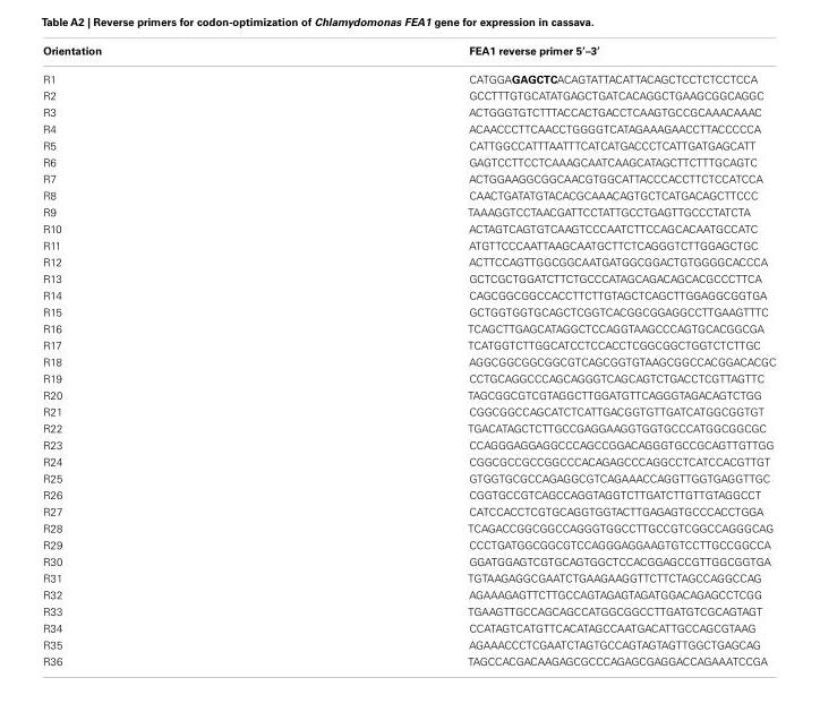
<table><thead><tr><td>Orientation</td><td>FEA1 reverse primer 5′–3′</td></tr></thead><tbody><tr><td>R1</td><td>CATGGAGAGCTCACAGTATTACATTACAGCTCCTCTCCTCCA</td></tr><tr><td>R2</td><td>GCCTTTGTGCATATGAGCTGATCACAGGCTGAAGCGGCAGGC</td></tr><tr><td>R3</td><td>ACTGGGTGTCTTTACCACTGACCTCAAGTGCCGCAAACAAAC</td></tr><tr><td>R4</td><td>ACAACCCTTCAACCTGGGGTCATAGAAAGAACCTTACCCCCA</td></tr><tr><td>R5</td><td>CATTGGCCATTTAATTTCATCATGACCCTCATTGATGAGCATT</td></tr><tr><td>R6</td><td>GAGTCCTTCCTCAAAGCAATCAAGCATAGCTTCTTTGCAGTC</td></tr><tr><td>R7</td><td>ACTGGAAGGCGGCAACGTGGCATTACCCACCTTCTCCATCCA</td></tr><tr><td>R8</td><td>CAACTGATATGTACACGCAAACAGTGCTCATGACAGCTTCCC</td></tr><tr><td>R9</td><td>TAAAGGTCCTAACGATTCCTATTGCCTGAGTTGCCCTATCTA</td></tr><tr><td>R10</td><td>ACTAGTCAGTGTCAAGTCCCAATCTTCCAGCACAATGCCATC</td></tr><tr><td>R11</td><td>ATGTTCCCAATTAAGCAATGCTTCTCAGGGTCTTGGAGCTGC</td></tr><tr><td>R12</td><td>ACTTCCAGTTGGCGGCAATGATGGCGGACTGTGGGGCACCCA</td></tr><tr><td>R13</td><td>GCTCGCTGGATCTTCTGCCCATAGCAGACAGCACGCCCTTCA</td></tr><tr><td>R14</td><td>CAGCGGCGGCCACCTTCTTGTAGCTCAGCTTGGAGGCGGTGA</td></tr><tr><td>R15</td><td>GCTGGTGGTGCAGCTCGGTCACGGCGGAGGCCTTGAAGTTTC</td></tr><tr><td>R16</td><td>TCAGCTTGAGCATAGGCTCCAGGTAAGCCCAGTGCACGGCGA</td></tr><tr><td>R17</td><td>TCATGGTCTTGGCATCCTCCACCTCGGCGGCTGGTCTCTTGC</td></tr><tr><td>R18</td><td>AGGCGGCGGCGGCGTCAGCGGTGTAAGCGGCCACGGACACGC</td></tr><tr><td>R19</td><td>CCTGCAGGCCCAGCAGGGTCAGCAGTCTGACCTCGTTAGTTC</td></tr><tr><td>R20</td><td>TAGCGGCGTCGTAGGCTTGGATGTTCAGGGTAGACAGTCTGG</td></tr><tr><td>R21</td><td>CGGCGGCCAGCATCTCATTGACGGTGTTGATCATGGCGGTGT</td></tr><tr><td>R22</td><td>TGACATAGCTCTTGCCGAGGAAGGTGGTGCCCATGGCGGCGC</td></tr><tr><td>R23</td><td>CCAGGGAGGAGGCCCAGCCGGACAGGGTGCCGCAGTTGTTGG</td></tr><tr><td>R24</td><td>CGGCGCCGCCGGCCCACAGAGCCCAGGCCTCATCCACGTTGT</td></tr><tr><td>R25</td><td>GTGGTGCGCCAGAGGCGTCAGAAACCAGGTTGGTGAGGTTGC</td></tr><tr><td>R26</td><td>CGGTGCCGTCAGCCAGGTAGGTCTTGATCTTGTTGTAGGCCT</td></tr><tr><td>R27</td><td>CATCCACCTCGTGCAGGTGGTACTTGAGAGTGCCCACCTGGA</td></tr><tr><td>R28</td><td>TCAGACCGGCGGCCAGGGTGGCCTTGCCGTCGGCCAGGGCAG</td></tr><tr><td>R29</td><td>CCCTGATGGCGGCGTCCAGGGAGGAAGTGTCCTTGCCGGCCA</td></tr><tr><td>R30</td><td>GGATGGAGTCGTGCAGTGGCTCCACGGAGCCGTTGGCGGTGA</td></tr><tr><td>R31</td><td>TGTAAGAGGCGAATCTGAAGAAGGTTCTTCTAGCCAGGCCAG</td></tr><tr><td>R32</td><td>AGAAAGAGTTCTTGCCAGTAGAGTAGATGGACAGAGCCTCGG</td></tr><tr><td>R33</td><td>TGAAGTTGCCAGCAGCCATGGCGGCCTTGATGTCGCAGTAGT</td></tr><tr><td>R34</td><td>CCATAGTCATGTTCACATAGCCAATGACATTGCCAGCGTAAG</td></tr><tr><td>R35</td><td>AGAAACCCTCGAATCTAGTGCCAGTAGTAGTTGGCTGAGCAG</td></tr><tr><td>R36</td><td>TAGCCACGACAAGAGCGCCCAGAGCGAGGACCAGAAATCCGA</td></tr></tbody></table>